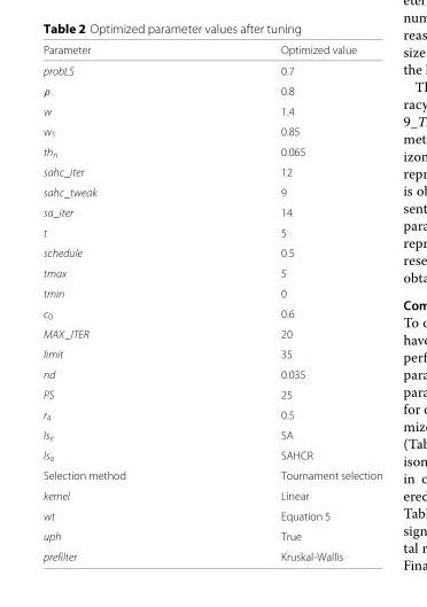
<table><thead><tr><td>Parameter</td><td>Optimized value</td></tr></thead><tbody><tr><td>probLS</td><td>0.7</td></tr><tr><td>ρ</td><td>0.8</td></tr><tr><td>w</td><td>1.4</td></tr><tr><td>w<sub>1</sub></td><td>0.85</td></tr><tr><td>th<sub>n</sub></td><td>0.065</td></tr><tr><td>sahc_iter</td><td>12</td></tr><tr><td>sahc_tweak</td><td>9</td></tr><tr><td>sa_iter</td><td>14</td></tr><tr><td>t</td><td>5</td></tr><tr><td>schedule</td><td>0.5</td></tr><tr><td>tmax</td><td>5</td></tr><tr><td>tmin</td><td>0</td></tr><tr><td>c<sub>0</sub></td><td>0.6</td></tr><tr><td>MAX_ITER</td><td>20</td></tr><tr><td>limit</td><td>35</td></tr><tr><td>nd</td><td>0.035</td></tr><tr><td>PS</td><td>25</td></tr><tr><td>r<sub>4</sub></td><td>0.5</td></tr><tr><td>ls<sub>e</sub></td><td>SA</td></tr><tr><td>ls<sub>o</sub></td><td>SAHCR</td></tr><tr><td>Selection method</td><td>Tournament selection</td></tr><tr><td>kernel</td><td>Linear</td></tr><tr><td>wt</td><td>Equation 5</td></tr><tr><td>uph</td><td>True</td></tr><tr><td>prefilter</td><td>Kruskal-Wallis</td></tr></tbody></table>